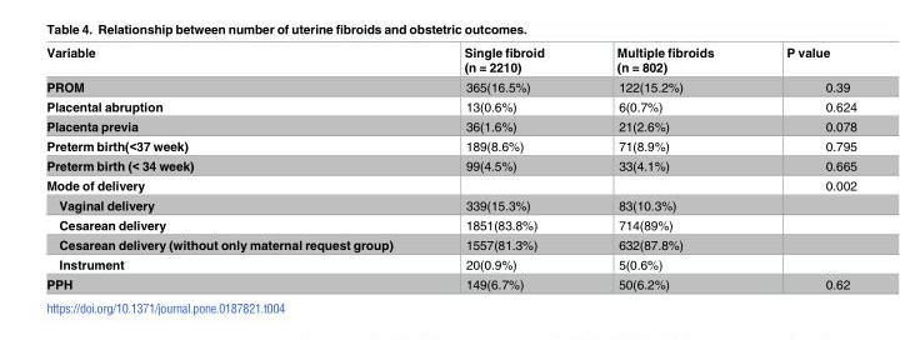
<table><thead><tr><td>Variable</td><td>Single fibroid (n = 2210)</td><td>Multiple fibroids (n = 802)</td><td>P value</td></tr></thead><tbody><tr><td>PROM</td><td>365(16.5%)</td><td>122(15.2%)</td><td>0.39</td></tr><tr><td>Placental abruption</td><td>13(0.6%)</td><td>6(0.7%)</td><td>0.624</td></tr><tr><td>Placenta previa</td><td>36(1.6%)</td><td>21(2.6%)</td><td>0.078</td></tr><tr><td>Preterm birth(&lt;37 week)</td><td>189(8.6%)</td><td>71(8.9%)</td><td>0.795</td></tr><tr><td>Preterm birth (&lt; 34 week)</td><td>99(4.5%)</td><td>33(4.1%)</td><td>0.665</td></tr><tr><td>Mode of delivery</td><td></td><td></td><td>0.002</td></tr><tr><td>Vaginal delivery</td><td>339(15.3%)</td><td>83(10.3%)</td><td></td></tr><tr><td>Cesarean delivery</td><td>1851(83.8%)</td><td>714(89%)</td><td></td></tr><tr><td>Cesarean delivery (without only maternal request group)</td><td>1557(81.3%)</td><td>632(87.8%)</td><td></td></tr><tr><td>Instrument</td><td>20(0.9%)</td><td>5(0.6%)</td><td></td></tr><tr><td>PPH</td><td>149(6.7%)</td><td>50(6.2%)</td><td>0.62</td></tr></tbody></table>